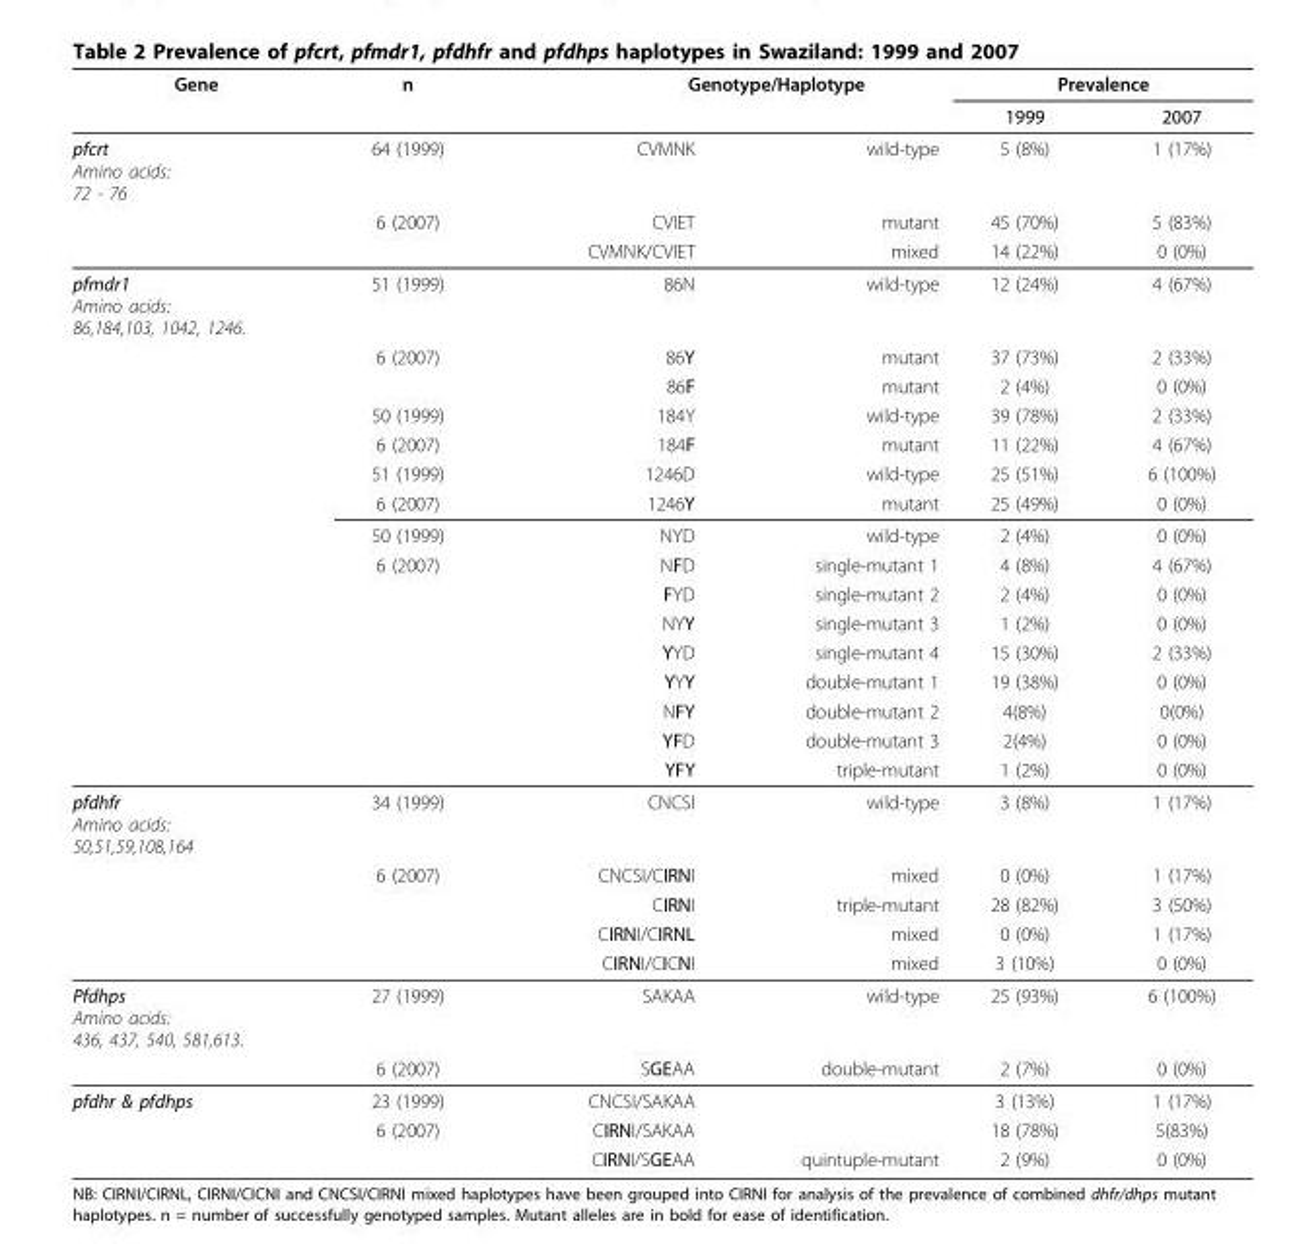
<table><thead><tr><td rowspan="2">Gene</td><td rowspan="2">n</td><td colspan="2">Genotype/Haplotype</td><td colspan="2">Prevalence</td></tr><tr><td></td><td></td><td>1999</td><td>2007</td></tr></thead><tbody><tr><td rowspan="3">pfcrt Amino acids: 72 - 76</td><td>64 (1999)</td><td>CVMNK</td><td>wild-type</td><td>5 (8%)</td><td>1 (17%)</td></tr><tr><td>6 (2007)</td><td>CVIET</td><td>mutant</td><td>45 (70%)</td><td>5 (83%)</td></tr><tr><td></td><td>CVMNK/CVIET</td><td>mixed</td><td>14 (22%)</td><td>0 (0%)</td></tr><tr><td rowspan="16">pfmdr1 Amino acids: 86,184,103, 1042, 1246.</td><td>51 (1999)</td><td>86N</td><td>wild-type</td><td>12 (24%)</td><td>4 (67%)</td></tr><tr><td>6 (2007)</td><td>86Y</td><td>mutant</td><td>37 (73%)</td><td>2 (33%)</td></tr><tr><td></td><td>86F</td><td>mutant</td><td>2 (4%)</td><td>0 (0%)</td></tr><tr><td>50 (1999)</td><td>184Y</td><td>wild-type</td><td>39 (78%)</td><td>2 (33%)</td></tr><tr><td>6 (2007)</td><td>184F</td><td>mutant</td><td>11 (22%)</td><td>4 (67%)</td></tr><tr><td>51 (1999)</td><td>1246D</td><td>wild-type</td><td>25 (51%)</td><td>6 (100%)</td></tr><tr><td>6 (2007)</td><td>1246Y</td><td>mutant</td><td>25 (49%)</td><td>0 (0%)</td></tr><tr><td>50 (1999)</td><td>NYD</td><td>wild-type</td><td>2 (4%)</td><td>0 (0%)</td></tr><tr><td>6 (2007)</td><td>NFD</td><td>single-mutant 1</td><td>4 (8%)</td><td>4 (67%)</td></tr><tr><td></td><td>FYD</td><td>single-mutant 2</td><td>2 (4%)</td><td>0 (0%)</td></tr><tr><td></td><td>NYY</td><td>single-mutant 3</td><td>1 (2%)</td><td>0 (0%)</td></tr><tr><td></td><td>YYD</td><td>single-mutant 4</td><td>15 (30%)</td><td>2 (33%)</td></tr><tr><td></td><td>YYY</td><td>double-mutant 1</td><td>19 (38%)</td><td>0 (0%)</td></tr><tr><td></td><td>NFY</td><td>double-mutant 2</td><td>4(8%)</td><td>0(0%)</td></tr><tr><td></td><td>YFD</td><td>double-mutant 3</td><td>2(4%)</td><td>0 (0%)</td></tr><tr><td></td><td>YFY</td><td>triple-mutant</td><td>1 (2%)</td><td>0 (0%)</td></tr><tr><td rowspan="5">pfdhfr Amino acids: 50,51,59,108,164</td><td>34 (1999)</td><td>CNCSI</td><td>wild-type</td><td>3 (8%)</td><td>1 (17%)</td></tr><tr><td>6 (2007)</td><td>CNCSI/CIRNI</td><td>mixed</td><td>0 (0%)</td><td>1 (17%)</td></tr><tr><td></td><td>CIRNI</td><td>triple-mutant</td><td>28 (82%)</td><td>3 (50%)</td></tr><tr><td></td><td>CIRNI/CIRNL</td><td>mixed</td><td>0 (0%)</td><td>1 (17%)</td></tr><tr><td></td><td>CIRNI/CICNI</td><td>mixed</td><td>3 (10%)</td><td>0 (0%)</td></tr><tr><td rowspan="2">Pfdhps Amino acids: 436, 437, 540, 581,613.</td><td>27 (1999)</td><td>SAKAA</td><td>wild-type</td><td>25 (93%)</td><td>6 (100%)</td></tr><tr><td>6 (2007)</td><td>SGEAA</td><td>double-mutant</td><td>2 (7%)</td><td>0 (0%)</td></tr><tr><td rowspan="3">pfdhr &amp; pfdhps</td><td>23 (1999)</td><td>CNCSI/SAKAA</td><td></td><td>3 (13%)</td><td>1 (17%)</td></tr><tr><td>6 (2007)</td><td>CIRNI/SAKAA</td><td></td><td>18 (78%)</td><td>5(83%)</td></tr><tr><td></td><td>CIRNI/SGEAA</td><td>quintuple-mutant</td><td>2 (9%)</td><td>0 (0%)</td></tr></tbody></table>